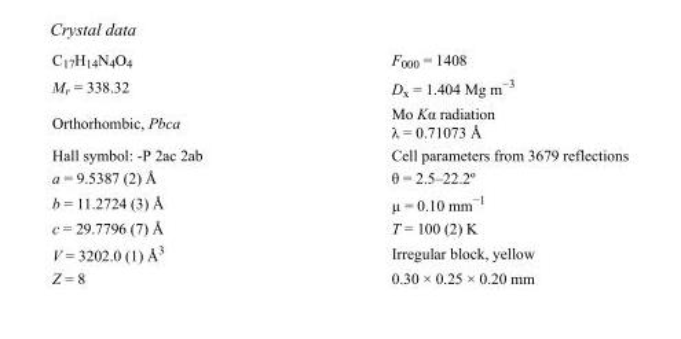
<table><tbody><tr><td>C<sub>17</sub>H<sub>14</sub>N<sub>4</sub>O<sub>4</sub></td><td>F<sub>000</sub> = 1408</td></tr><tr><td>M<sub>r</sub> = 338.32</td><td>D<sub>x</sub> = 1.404 Mg m<sup>−3</sup></td></tr><tr><td>Orthorhombic, Pbca</td><td>Mo Kα radiation λ = 0.71073 Å</td></tr><tr><td>Hall symbol: -P 2ac 2ab</td><td>Cell parameters from 3679 reflections</td></tr><tr><td>a = 9.5387 (2) Å</td><td>θ = 2.5–22.2º</td></tr><tr><td>b = 11.2724 (3) Å</td><td>µ = 0.10 mm<sup>−1</sup></td></tr><tr><td>c = 29.7796 (7) Å</td><td>T = 100 (2) K</td></tr><tr><td>V = 3202.0 (1) Å<sup>3</sup></td><td>Irregular block, yellow</td></tr><tr><td>Z = 8</td><td>0.30 × 0.25 × 0.20 mm</td></tr></tbody></table>